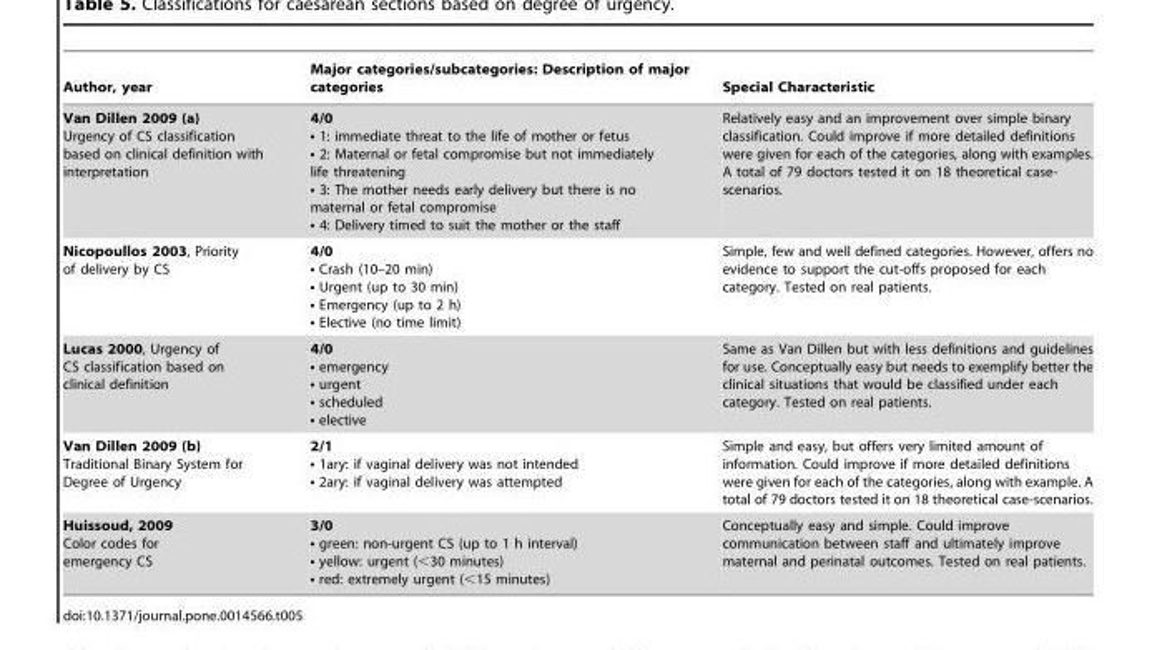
<table><thead><tr><td>Author, year</td><td>Major categories/subcategories: Description of major categories</td><td>Special Characteristic</td></tr></thead><tbody><tr><td>Van Dillen 2009 (a) Urgency of CS classification based on clinical definition with interpretation</td><td>4/0 • 1: immediate threat to the life of mother or fetus • 2: Maternal or fetal compromise but not immediately life threatening • 3: The mother needs early delivery but there is no maternal or fetal compromise • 4: Delivery timed to suit the mother or the staff</td><td>Relatively easy and an improvement over simple binary classification. Could improve if more detailed definitions were given for each of the categories, along with examples. A total of 79 doctors tested it on 18 theoretical case- scenarios.</td></tr><tr><td>Nicopoullos 2003, Priority of delivery by CS</td><td>4/0 • Crash (10–20 min) • Urgent (up to 30 min) • Emergency (up to 2 h) • Elective (no time limit)</td><td>Simple, few and well defined categories. However, offers no evidence to support the cut-offs proposed for each category. Tested on real patients.</td></tr><tr><td>Lucas 2000, Urgency of CS classification based on clinical definition</td><td>4/0 • emergency • urgent • scheduled • elective</td><td>Same as Van Dillen but with less definitions and guidelines for use. Conceptually easy but needs to exemplify better the clinical situations that would be classified under each category. Tested on real patients.</td></tr><tr><td>Van Dillen 2009 (b) Traditional Binary System for Degree of Urgency</td><td>2/1 • 1ary: if vaginal delivery was not intended • 2ary: if vaginal delivery was attempted</td><td>Simple and easy, but offers very limited amount of information. Could improve if more detailed definitions were given for each of the categories, along with example. A total of 79 doctors tested it on 18 theoretical case-scenarios.</td></tr><tr><td>Huissoud, 2009 Color codes for emergency CS</td><td>3/0 • green: non-urgent CS (up to 1 h interval) • yellow: urgent (&lt;30 minutes) • red: extremely urgent (&lt;15 minutes)</td><td>Conceptually easy and simple. Could improve communication between staff and ultimately improve maternal and perinatal outcomes. Tested on real patients.</td></tr></tbody></table>